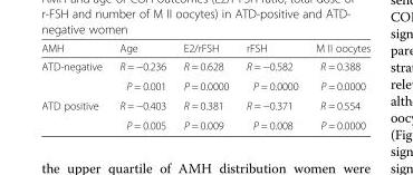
<table><thead><tr><td>AMH</td><td>Age</td><td>E2/rFSH</td><td>rFSH</td><td>M II oocytes</td></tr></thead><tbody><tr><td rowspan="2">ATD-negative</td><td>R = −0.236</td><td>R = 0.628</td><td>R = −0.582</td><td>R = 0.388</td></tr><tr><td>P = 0.001</td><td>P = 0.0000</td><td>P = 0.0000</td><td>P = 0.0000</td></tr><tr><td rowspan="2">ATD positive</td><td>R = −0.403</td><td>R = 0.381</td><td>R = −0.371</td><td>R = 0.554</td></tr><tr><td>P = 0.005</td><td>P = 0.009</td><td>P = 0.008</td><td>P = 0.0000</td></tr></tbody></table>